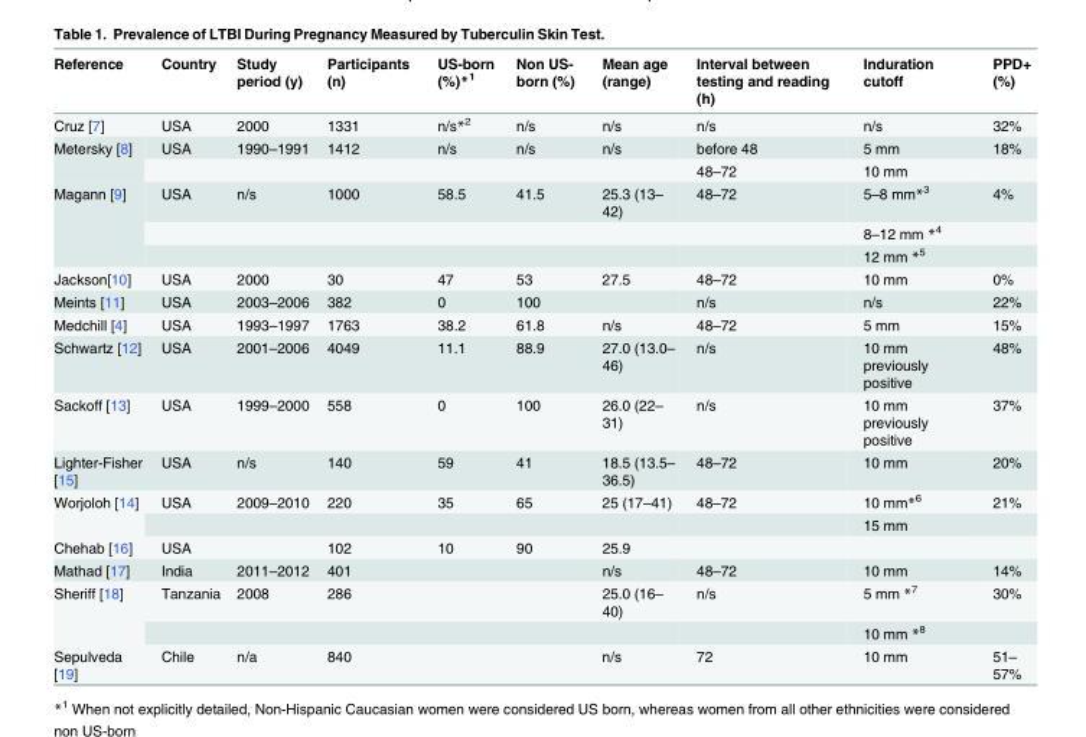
<table><thead><tr><td>Reference</td><td>Country</td><td>Study period (y)</td><td>Participants (n)</td><td>US-born (%)*<sup>1</sup></td><td>Non US- born (%)</td><td>Mean age (range)</td><td>Interval between testing and reading (h)</td><td>Induration cutoff</td><td>PPD+ (%)</td></tr></thead><tbody><tr><td>Cruz [7]</td><td>USA</td><td>2000</td><td>1331</td><td>n/s*<sup>2</sup></td><td>n/s</td><td>n/s</td><td>n/s</td><td>n/s</td><td>32%</td></tr><tr><td rowspan="2">Metersky [8]</td><td>USA</td><td>1990–1991</td><td>1412</td><td>n/s</td><td>n/s</td><td>n/s</td><td>before 48</td><td>5 mm</td><td>18%</td></tr><tr><td></td><td></td><td></td><td></td><td></td><td></td><td>48–72</td><td>10 mm</td><td></td></tr><tr><td rowspan="3">Magann [9]</td><td>USA</td><td>n/s</td><td>1000</td><td>58.5</td><td>41.5</td><td>25.3 (13– 42)</td><td>48–72</td><td>5–8 mm*<sup>3</sup></td><td>4%</td></tr><tr><td></td><td></td><td></td><td></td><td></td><td></td><td></td><td>8–12 mm *<sup>4</sup></td><td></td></tr><tr><td></td><td></td><td></td><td></td><td></td><td></td><td></td><td>12 mm *<sup>5</sup></td><td></td></tr><tr><td>Jackson[10]</td><td>USA</td><td>2000</td><td>30</td><td>47</td><td>53</td><td>27.5</td><td>48–72</td><td>10 mm</td><td>0%</td></tr><tr><td>Meints [11]</td><td>USA</td><td>2003–2006</td><td>382</td><td>0</td><td>100</td><td></td><td>n/s</td><td>n/s</td><td>22%</td></tr><tr><td>Medchill [4]</td><td>USA</td><td>1993–1997</td><td>1763</td><td>38.2</td><td>61.8</td><td>n/s</td><td>48–72</td><td>5 mm</td><td>15%</td></tr><tr><td>Schwartz [12]</td><td>USA</td><td>2001–2006</td><td>4049</td><td>11.1</td><td>88.9</td><td>27.0 (13.0– 46)</td><td>n/s</td><td>10 mm previously positive</td><td>48%</td></tr><tr><td>Sackoff [13]</td><td>USA</td><td>1999–2000</td><td>558</td><td>0</td><td>100</td><td>26.0 (22– 31)</td><td>n/s</td><td>10 mm previously positive</td><td>37%</td></tr><tr><td>Lighter-Fisher [15]</td><td>USA</td><td>n/s</td><td>140</td><td>59</td><td>41</td><td>18.5 (13.5– 36.5)</td><td>48–72</td><td>10 mm</td><td>20%</td></tr><tr><td rowspan="2">Worjoloh [14]</td><td>USA</td><td>2009–2010</td><td>220</td><td>35</td><td>65</td><td>25 (17–41)</td><td>48–72</td><td>10 mm*<sup>6</sup></td><td>21%</td></tr><tr><td></td><td></td><td></td><td></td><td></td><td></td><td></td><td>15 mm</td><td></td></tr><tr><td>Chehab [16]</td><td>USA</td><td></td><td>102</td><td>10</td><td>90</td><td>25.9</td><td></td><td></td><td></td></tr><tr><td>Mathad [17]</td><td>India</td><td>2011–2012</td><td>401</td><td></td><td></td><td>n/s</td><td>48–72</td><td>10 mm</td><td>14%</td></tr><tr><td rowspan="2">Sheriff [18]</td><td>Tanzania</td><td>2008</td><td>286</td><td></td><td></td><td>25.0 (16– 40)</td><td>n/s</td><td>5 mm *<sup>7</sup></td><td>30%</td></tr><tr><td></td><td></td><td></td><td></td><td></td><td></td><td></td><td>10 mm *<sup>8</sup></td><td></td></tr><tr><td>Sepulveda [19]</td><td>Chile</td><td>n/a</td><td>840</td><td></td><td></td><td>n/s</td><td>72</td><td>10 mm</td><td>51– 57%</td></tr></tbody></table>